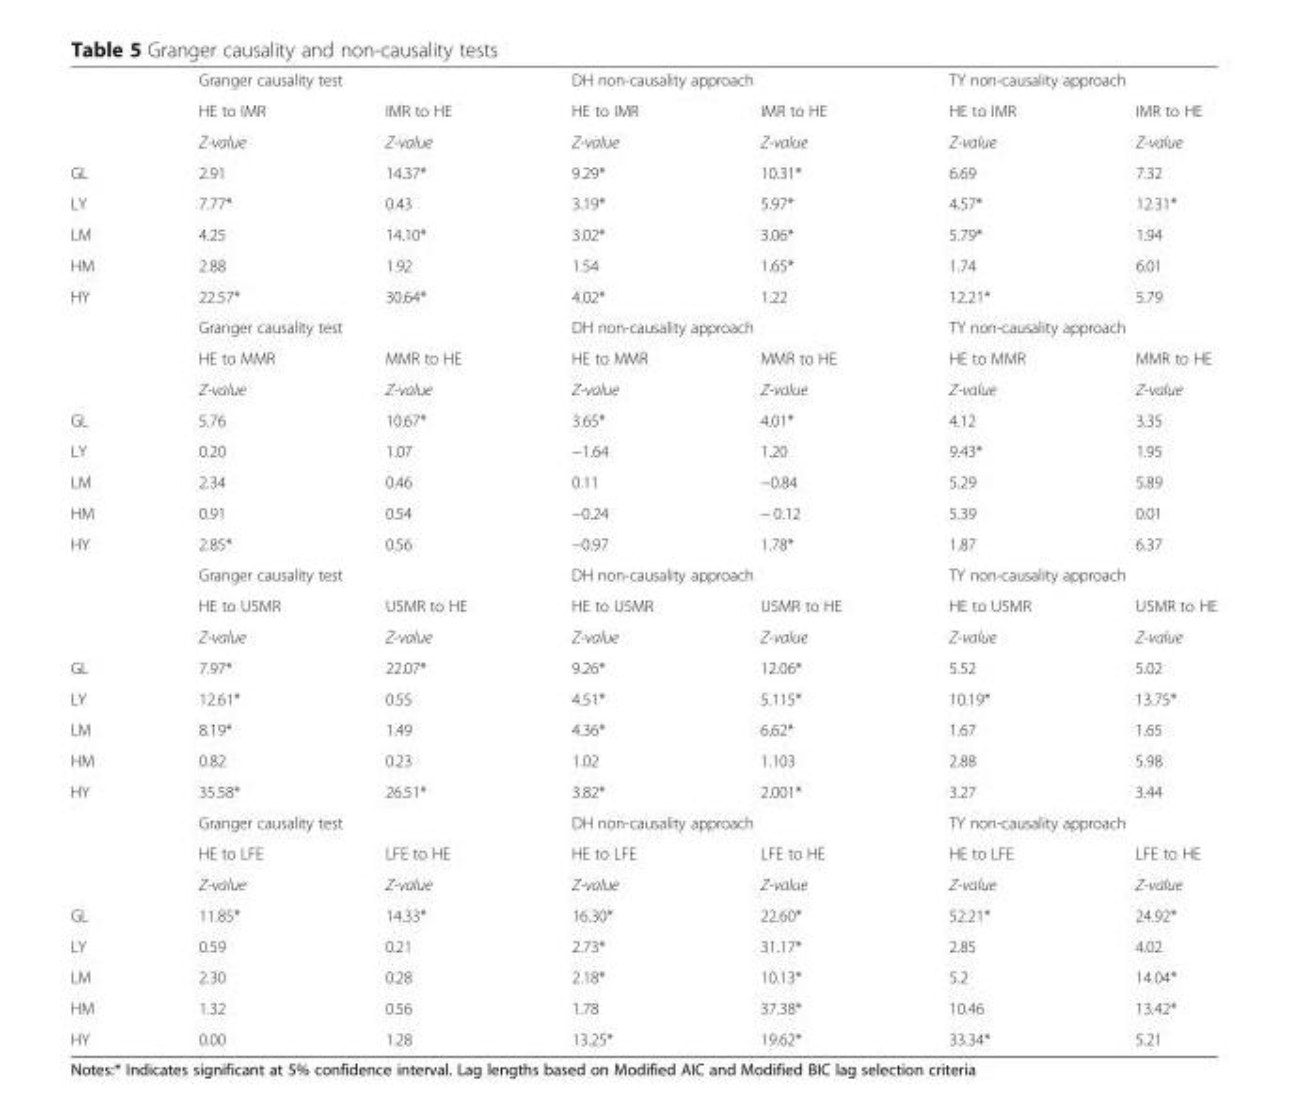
<table><thead><tr><td rowspan="2"></td><td colspan="2">Granger causality test</td><td colspan="2">DH non-causality approach</td><td colspan="2">TY non-causality approach</td></tr><tr><td>HE to IMR</td><td>IMR to HE</td><td>HE to IMR</td><td>IMR to HE</td><td>HE to IMR</td><td>IMR to HE</td></tr></thead><tbody><tr><td></td><td>Z-value</td><td>Z-value</td><td>Z-value</td><td>Z-value</td><td>Z-value</td><td>Z-value</td></tr><tr><td>GL</td><td>2.91</td><td>14.37*</td><td>9.29*</td><td>10.31*</td><td>6.69</td><td>7.32</td></tr><tr><td>LY</td><td>7.77*</td><td>0.43</td><td>3.19*</td><td>5.97*</td><td>4.57*</td><td>12.31*</td></tr><tr><td>LM</td><td>4.25</td><td>14.10*</td><td>3.02*</td><td>3.06*</td><td>5.79*</td><td>1.94</td></tr><tr><td>HM</td><td>2.88</td><td>1.92</td><td>1.54</td><td>1.65*</td><td>1.74</td><td>6.01</td></tr><tr><td rowspan="4">HY</td><td>22.57*</td><td>30.64*</td><td>4.02*</td><td>1.22</td><td>12.21*</td><td>5.79</td></tr><tr><td colspan="2">Granger causality test</td><td colspan="2">DH non-causality approach</td><td colspan="2">TY non-causality approach</td></tr><tr><td>HE to MMR</td><td>MMR to HE</td><td>HE to MMR</td><td>MMR to HE</td><td>HE to MMR</td><td>MMR to HE</td></tr><tr><td>Z-value</td><td>Z-value</td><td>Z-value</td><td>Z-value</td><td>Z-value</td><td>Z-value</td></tr><tr><td>GL</td><td>5.76</td><td>10.67*</td><td>3.65*</td><td>4.01*</td><td>4.12</td><td>3.35</td></tr><tr><td>LY</td><td>0.20</td><td>1.07</td><td>−1.64</td><td>1.20</td><td>9.43*</td><td>1.95</td></tr><tr><td>LM</td><td>2.34</td><td>0.46</td><td>0.11</td><td>−0.84</td><td>5.29</td><td>5.89</td></tr><tr><td>HM</td><td>0.91</td><td>0.54</td><td>−0.24</td><td>− 0.12</td><td>5.39</td><td>0.01</td></tr><tr><td rowspan="4">HY</td><td>2.85*</td><td>0.56</td><td>−0.97</td><td>1.78*</td><td>1.87</td><td>6.37</td></tr><tr><td colspan="2">Granger causality test</td><td colspan="2">DH non-causality approach</td><td colspan="2">TY non-causality approach</td></tr><tr><td>HE to U5MR</td><td>U5MR to HE</td><td>HE to U5MR</td><td>U5MR to HE</td><td>HE to U5MR</td><td>U5MR to HE</td></tr><tr><td>Z-value</td><td>Z-value</td><td>Z-value</td><td>Z-value</td><td>Z-value</td><td>Z-value</td></tr><tr><td>GL</td><td>7.97*</td><td>22.07*</td><td>9.26*</td><td>12.06*</td><td>5.52</td><td>5.02</td></tr><tr><td>LY</td><td>12.61*</td><td>0.55</td><td>4.51*</td><td>5.115*</td><td>10.19*</td><td>13.75*</td></tr><tr><td>LM</td><td>8.19*</td><td>1.49</td><td>4.36*</td><td>6.62*</td><td>1.67</td><td>1.65</td></tr><tr><td>HM</td><td>0.82</td><td>0.23</td><td>1.02</td><td>1.103</td><td>2.88</td><td>5.98</td></tr><tr><td rowspan="4">HY</td><td>35.58*</td><td>26.51*</td><td>3.82*</td><td>2.001*</td><td>3.27</td><td>3.44</td></tr><tr><td colspan="2">Granger causality test</td><td colspan="2">DH non-causality approach</td><td colspan="2">TY non-causality approach</td></tr><tr><td>HE to LFE</td><td>LFE to HE</td><td>HE to LFE</td><td>LFE to HE</td><td>HE to LFE</td><td>LFE to HE</td></tr><tr><td>Z-value</td><td>Z-value</td><td>Z-value</td><td>Z-value</td><td>Z-value</td><td>Z-value</td></tr><tr><td>GL</td><td>11.85*</td><td>14.33*</td><td>16.30*</td><td>22.60*</td><td>52.21*</td><td>24.92*</td></tr><tr><td>LY</td><td>0.59</td><td>0.21</td><td>2.73*</td><td>31.17*</td><td>2.85</td><td>4.02</td></tr><tr><td>LM</td><td>2.30</td><td>0.28</td><td>2.18*</td><td>10.13*</td><td>5.2</td><td>14.04*</td></tr><tr><td>HM</td><td>1.32</td><td>0.56</td><td>1.78</td><td>37.38*</td><td>10.46</td><td>13.42*</td></tr><tr><td>HY</td><td>0.00</td><td>1.28</td><td>13.25*</td><td>19.62*</td><td>33.34*</td><td>5.21</td></tr></tbody></table>